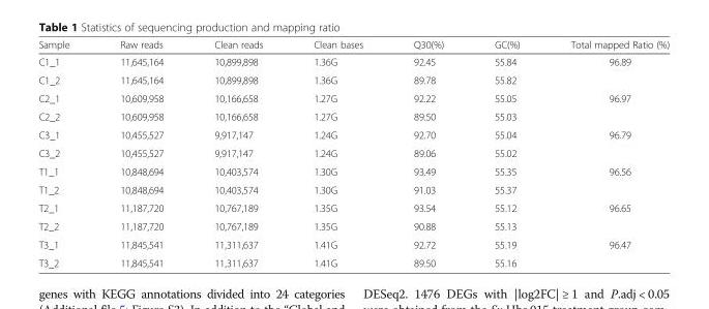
<table><thead><tr><td>Sample</td><td>Raw reads</td><td>Clean reads</td><td>Clean bases</td><td>Q30(%)</td><td>GC(%)</td><td>Total mapped Ratio (%)</td></tr></thead><tbody><tr><td>C1_1</td><td>11,645,164</td><td>10,899,898</td><td>1.36G</td><td>92.45</td><td>55.84</td><td rowspan="2">96.89</td></tr><tr><td>C1_2</td><td>11,645,164</td><td>10,899,898</td><td>1.36G</td><td>89.78</td><td>55.82</td></tr><tr><td>C2_1</td><td>10,609,958</td><td>10,166,658</td><td>1.27G</td><td>92.22</td><td>55.05</td><td rowspan="2">96.97</td></tr><tr><td>C2_2</td><td>10,609,958</td><td>10,166,658</td><td>1.27G</td><td>89.50</td><td>55.03</td></tr><tr><td>C3_1</td><td>10,455,527</td><td>9,917,147</td><td>1.24G</td><td>92.70</td><td>55.04</td><td rowspan="2">96.79</td></tr><tr><td>C3_2</td><td>10,455,527</td><td>9,917,147</td><td>1.24G</td><td>89.06</td><td>55.02</td></tr><tr><td>T1_1</td><td>10,848,694</td><td>10,403,574</td><td>1.30G</td><td>93.49</td><td>55.35</td><td rowspan="2">96.56</td></tr><tr><td>T1_2</td><td>10,848,694</td><td>10,403,574</td><td>1.30G</td><td>91.03</td><td>55.37</td></tr><tr><td>T2_1</td><td>11,187,720</td><td>10,767,189</td><td>1.35G</td><td>93.54</td><td>55.12</td><td rowspan="2">96.65</td></tr><tr><td>T2_2</td><td>11,187,720</td><td>10,767,189</td><td>1.35G</td><td>90.88</td><td>55.13</td></tr><tr><td>T3_1</td><td>11,845,541</td><td>11,311,637</td><td>1.41G</td><td>92.72</td><td>55.19</td><td rowspan="2">96.47</td></tr><tr><td>T3_2</td><td>11,845,541</td><td>11,311,637</td><td>1.41G</td><td>89.50</td><td>55.16</td></tr></tbody></table>